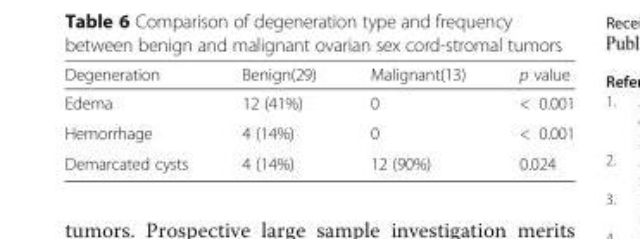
<table><thead><tr><td>Degeneration</td><td>Benign(29)</td><td>Malignant(13)</td><td>p value</td></tr></thead><tbody><tr><td>Edema</td><td>12 (41%)</td><td>0</td><td>&lt; 0.001</td></tr><tr><td>Hemorrhage</td><td>4 (14%)</td><td>0</td><td>&lt; 0.001</td></tr><tr><td>Demarcated cysts</td><td>4 (14%)</td><td>12 (90%)</td><td>0.024</td></tr></tbody></table>